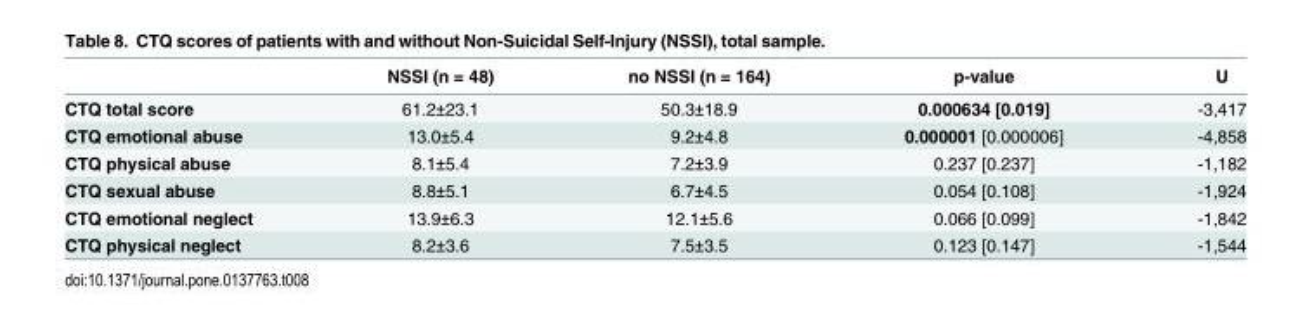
<table><thead><tr><td></td><td>NSSI (n = 48)</td><td>no NSSI (n = 164)</td><td>p-value</td><td>U</td></tr></thead><tbody><tr><td>CTQ total score</td><td>61.2±23.1</td><td>50.3±18.9</td><td>0.000634 [0.019]</td><td>-3,417</td></tr><tr><td>CTQ emotional abuse</td><td>13.0±5.4</td><td>9.2±4.8</td><td>0.000001 [0.000006]</td><td>-4,858</td></tr><tr><td>CTQ physical abuse</td><td>8.1±5.4</td><td>7.2±3.9</td><td>0.237 [0.237]</td><td>-1,182</td></tr><tr><td>CTQ sexual abuse</td><td>8.8±5.1</td><td>6.7±4.5</td><td>0.054 [0.108]</td><td>-1,924</td></tr><tr><td>CTQ emotional neglect</td><td>13.9±6.3</td><td>12.1±5.6</td><td>0.066 [0.099]</td><td>-1,842</td></tr><tr><td>CTQ physical neglect</td><td>8.2±3.6</td><td>7.5±3.5</td><td>0.123 [0.147]</td><td>-1,544</td></tr></tbody></table>